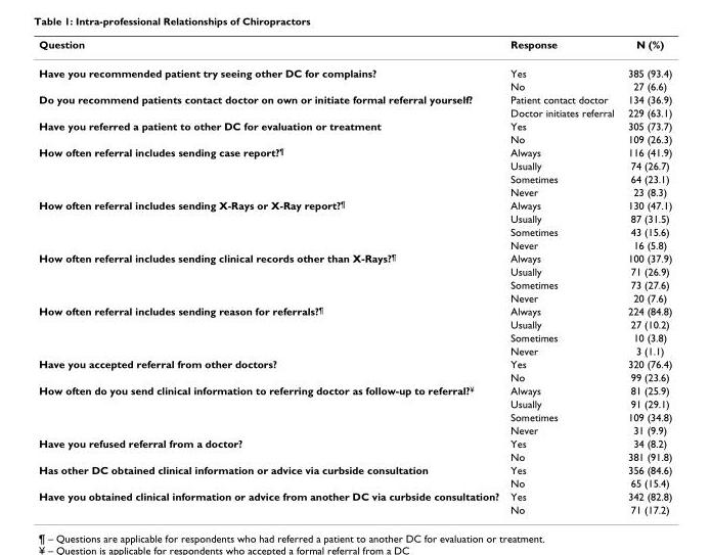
<table><thead><tr><td>Question</td><td>Response</td><td>N (%)</td></tr></thead><tbody><tr><td rowspan="2">Have you recommended patient try seeing other DC for complains?</td><td>Yes</td><td>385 (93.4)</td></tr><tr><td>No</td><td>27 (6.6)</td></tr><tr><td rowspan="2">Do you recommend patients contact doctor on own or initiate formal referral yourself?</td><td>Patient contact doctor</td><td>134 (36.9)</td></tr><tr><td>Doctor initiates referral</td><td>229 (63.1)</td></tr><tr><td rowspan="2">Have you referred a patient to other DC for evaluation or treatment</td><td>Yes</td><td>305 (73.7)</td></tr><tr><td>No</td><td>109 (26.3)</td></tr><tr><td rowspan="4">How often referral includes sending case report?<sup>¶</sup></td><td>Always</td><td>116 (41.9)</td></tr><tr><td>Usually</td><td>74 (26.7)</td></tr><tr><td>Sometimes</td><td>64 (23.1)</td></tr><tr><td>Never</td><td>23 (8.3)</td></tr><tr><td rowspan="4">How often referral includes sending X-Rays or X-Ray report?<sup>¶</sup></td><td>Always</td><td>130 (47.1)</td></tr><tr><td>Usually</td><td>87 (31.5)</td></tr><tr><td>Sometimes</td><td>43 (15.6)</td></tr><tr><td>Never</td><td>16 (5.8)</td></tr><tr><td rowspan="4">How often referral includes sending clinical records other than X-Rays?<sup>¶</sup></td><td>Always</td><td>100 (37.9)</td></tr><tr><td>Usually</td><td>71 (26.9)</td></tr><tr><td>Sometimes</td><td>73 (27.6)</td></tr><tr><td>Never</td><td>20 (7.6)</td></tr><tr><td rowspan="4">How often referral includes sending reason for referrals?<sup>¶</sup></td><td>Always</td><td>224 (84.8)</td></tr><tr><td>Usually</td><td>27 (10.2)</td></tr><tr><td>Sometimes</td><td>10 (3.8)</td></tr><tr><td>Never</td><td>3 (1.1)</td></tr><tr><td rowspan="2">Have you accepted referral from other doctors?</td><td>Yes</td><td>320 (76.4)</td></tr><tr><td>No</td><td>99 (23.6)</td></tr><tr><td rowspan="4">How often do you send clinical information to referring doctor as follow-up to referral?<sup>¥</sup></td><td>Always</td><td>81 (25.9)</td></tr><tr><td>Usually</td><td>91 (29.1)</td></tr><tr><td>Sometimes</td><td>109 (34.8)</td></tr><tr><td>Never</td><td>31 (9.9)</td></tr><tr><td rowspan="2">Have you refused referral from a doctor?</td><td>Yes</td><td>34 (8.2)</td></tr><tr><td>No</td><td>381 (91.8)</td></tr><tr><td rowspan="2">Has other DC obtained clinical information or advice via curbside consultation</td><td>Yes</td><td>356 (84.6)</td></tr><tr><td>No</td><td>65 (15.4)</td></tr><tr><td rowspan="2">Have you obtained clinical information or advice from another DC via curbside consultation?</td><td>Yes</td><td>342 (82.8)</td></tr><tr><td>No</td><td>71 (17.2)</td></tr></tbody></table>